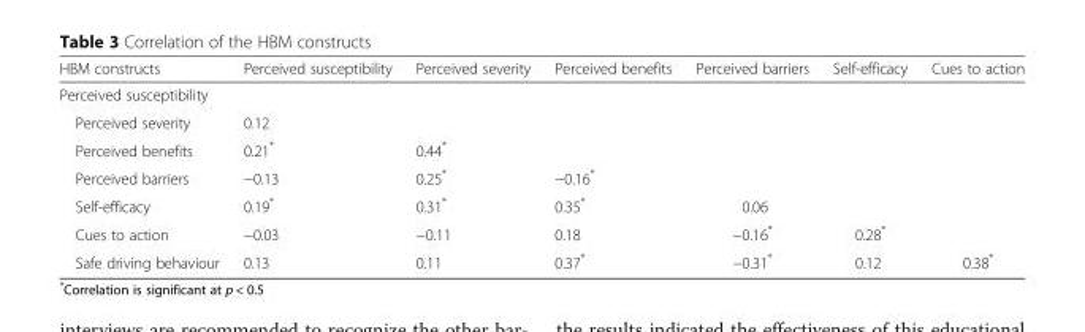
<table><thead><tr><td>HBM constructs</td><td>Perceived susceptibility</td><td>Perceived severity</td><td>Perceived benefits</td><td>Perceived barriers</td><td>Self-efficacy</td><td>Cues to action</td></tr></thead><tbody><tr><td colspan="7">Perceived susceptibility</td></tr><tr><td>Perceived severity</td><td>0.12</td><td></td><td></td><td></td><td></td><td></td></tr><tr><td>Perceived benefits</td><td>0.21*</td><td>0.44*</td><td></td><td></td><td></td><td></td></tr><tr><td>Perceived barriers</td><td>−0.13</td><td>0.25*</td><td>−0.16*</td><td></td><td></td><td></td></tr><tr><td>Self-efficacy</td><td>0.19*</td><td>0.31*</td><td>0.35*</td><td>0.06</td><td></td><td></td></tr><tr><td>Cues to action</td><td>−0.03</td><td>−0.11</td><td>0.18</td><td>−0.16*</td><td>0.28*</td><td></td></tr><tr><td>Safe driving behaviour</td><td>0.13</td><td>0.11</td><td>0.37*</td><td>−0.31*</td><td>0.12</td><td>0.38*</td></tr></tbody></table>